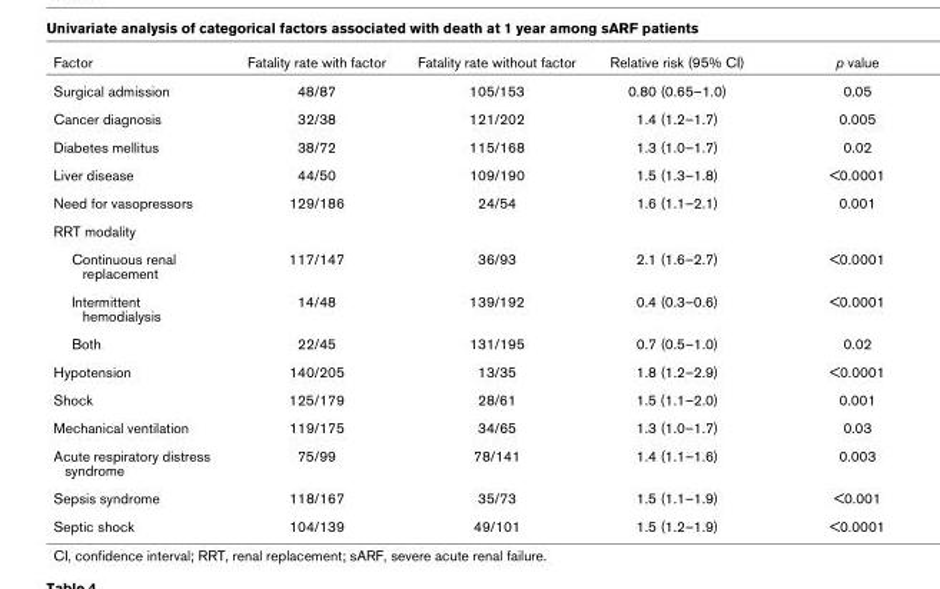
<table><thead><tr><td>Factor</td><td>Fatality rate with factor</td><td>Fatality rate without factor</td><td>Relative risk (95% CI)</td><td>p value</td></tr></thead><tbody><tr><td>Surgical admission</td><td>48/87</td><td>105/153</td><td>0.80 (0.65–1.0)</td><td>0.05</td></tr><tr><td>Cancer diagnosis</td><td>32/38</td><td>121/202</td><td>1.4 (1.2–1.7)</td><td>0.005</td></tr><tr><td>Diabetes mellitus</td><td>38/72</td><td>115/168</td><td>1.3 (1.0–1.7)</td><td>0.02</td></tr><tr><td>Liver disease</td><td>44/50</td><td>109/190</td><td>1.5 (1.3–1.8)</td><td>&lt;0.0001</td></tr><tr><td>Need for vasopressors</td><td>129/186</td><td>24/54</td><td>1.6 (1.1–2.1)</td><td>0.001</td></tr><tr><td colspan="5">RRT modality</td></tr><tr><td>Continuous renal replacement</td><td>117/147</td><td>36/93</td><td>2.1 (1.6–2.7)</td><td>&lt;0.0001</td></tr><tr><td>Intermittent hemodialysis</td><td>14/48</td><td>139/192</td><td>0.4 (0.3–0.6)</td><td>&lt;0.0001</td></tr><tr><td>Both</td><td>22/45</td><td>131/195</td><td>0.7 (0.5–1.0)</td><td>0.02</td></tr><tr><td>Hypotension</td><td>140/205</td><td>13/35</td><td>1.8 (1.2–2.9)</td><td>&lt;0.0001</td></tr><tr><td>Shock</td><td>125/179</td><td>28/61</td><td>1.5 (1.1–2.0)</td><td>0.001</td></tr><tr><td>Mechanical ventilation</td><td>119/175</td><td>34/65</td><td>1.3 (1.0–1.7)</td><td>0.03</td></tr><tr><td>Acute respiratory distress syndrome</td><td>75/99</td><td>78/141</td><td>1.4 (1.1–1.6)</td><td>0.003</td></tr><tr><td>Sepsis syndrome</td><td>118/167</td><td>35/73</td><td>1.5 (1.1–1.9)</td><td>&lt;0.001</td></tr><tr><td>Septic shock</td><td>104/139</td><td>49/101</td><td>1.5 (1.2–1.9)</td><td>&lt;0.0001</td></tr></tbody></table>